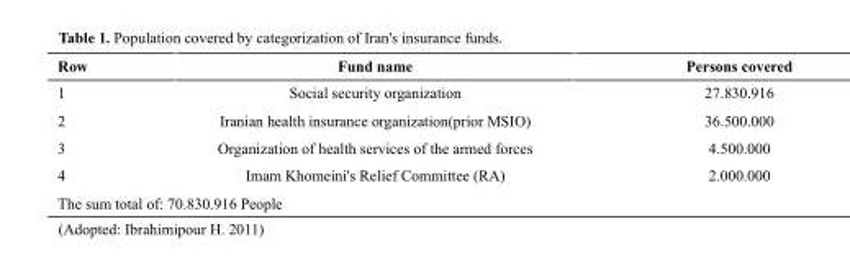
<table><thead><tr><td>Row</td><td>Fund name</td><td>Persons covered</td></tr></thead><tbody><tr><td>1</td><td>Social security organization</td><td>27.830.916</td></tr><tr><td>2</td><td>Iranian health insurance organization(prior MSIO)</td><td>36.500.000</td></tr><tr><td>3</td><td>Organization of health services of the armed forces</td><td>4.500.000</td></tr><tr><td>4</td><td>Imam Khomeini&#x27;s Relief Committee (RA)</td><td>2.000.000</td></tr><tr><td colspan="3">The sum total of: 70.830.916 People</td></tr></tbody></table>